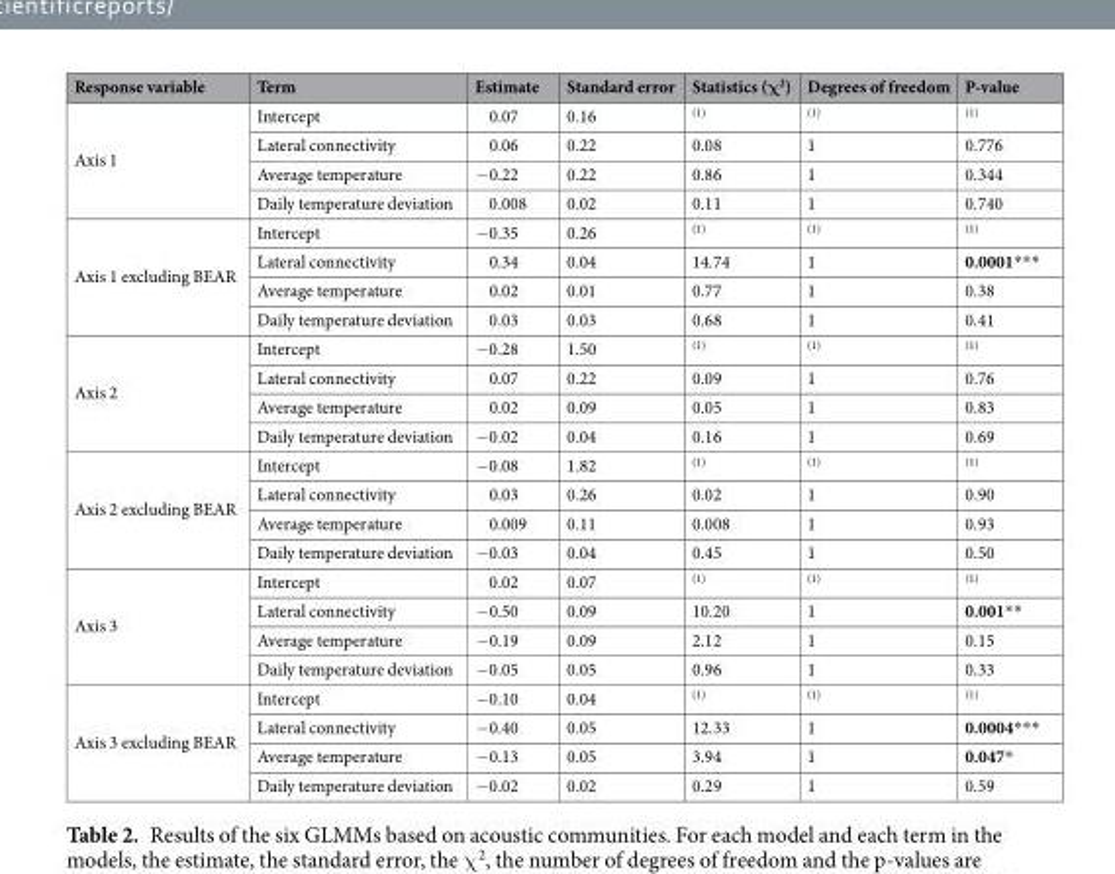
<table><thead><tr><td>Response variable</td><td>Term</td><td>Estimate</td><td>Standard error</td><td>Statistics (χ<sup>2</sup>)</td><td>Degrees of freedom</td><td>P-value</td></tr></thead><tbody><tr><td rowspan="4">Axis 1</td><td>Intercept</td><td>0.07</td><td>0.16</td><td><sup>(1)</sup></td><td><sup>(1)</sup></td><td><sup>(1)</sup></td></tr><tr><td>Lateral connectivity</td><td>0.06</td><td>0.22</td><td>0.08</td><td>1</td><td>0.776</td></tr><tr><td>Average temperature</td><td>−0.22</td><td>0.22</td><td>0.86</td><td>1</td><td>0.344</td></tr><tr><td>Daily temperature deviation</td><td>0.008</td><td>0.02</td><td>0.11</td><td>1</td><td>0.740</td></tr><tr><td rowspan="4">Axis 1 excluding BEAR</td><td>Intercept</td><td>−0.35</td><td>0.26</td><td><sup>(1)</sup></td><td><sup>(1)</sup></td><td><sup>(1)</sup></td></tr><tr><td>Lateral connectivity</td><td>0.34</td><td>0.04</td><td>14.74</td><td>1</td><td>0.0001***</td></tr><tr><td>Average temperature</td><td>0.02</td><td>0.01</td><td>0.77</td><td>1</td><td>0.38</td></tr><tr><td>Daily temperature deviation</td><td>0.03</td><td>0.03</td><td>0.68</td><td>1</td><td>0.41</td></tr><tr><td rowspan="4">Axis 2</td><td>Intercept</td><td>−0.28</td><td>1.50</td><td><sup>(1)</sup></td><td><sup>(1)</sup></td><td><sup>(1)</sup></td></tr><tr><td>Lateral connectivity</td><td>0.07</td><td>0.22</td><td>0.09</td><td>1</td><td>0.76</td></tr><tr><td>Average temperature</td><td>0.02</td><td>0.09</td><td>0.05</td><td>1</td><td>0.83</td></tr><tr><td>Daily temperature deviation</td><td>−0.02</td><td>0.04</td><td>0.16</td><td>1</td><td>0.69</td></tr><tr><td rowspan="4">Axis 2 excluding BEAR</td><td>Intercept</td><td>−0.08</td><td>1.82</td><td><sup>(1)</sup></td><td><sup>(1)</sup></td><td><sup>(1)</sup></td></tr><tr><td>Lateral connectivity</td><td>0.03</td><td>0.26</td><td>0.02</td><td>1</td><td>0.90</td></tr><tr><td>Average temperature</td><td>0.009</td><td>0.11</td><td>0.008</td><td>1</td><td>0.93</td></tr><tr><td>Daily temperature deviation</td><td>−0.03</td><td>0.04</td><td>0.45</td><td>1</td><td>0.50</td></tr><tr><td rowspan="4">Axis 3</td><td>Intercept</td><td>0.02</td><td>0.07</td><td><sup>(1)</sup></td><td><sup>(1)</sup></td><td><sup>(1)</sup></td></tr><tr><td>Lateral connectivity</td><td>−0.50</td><td>0.09</td><td>10.20</td><td>1</td><td>0.001**</td></tr><tr><td>Average temperature</td><td>−0.19</td><td>0.09</td><td>2.12</td><td>1</td><td>0.15</td></tr><tr><td>Daily temperature deviation</td><td>−0.05</td><td>0.05</td><td>0.96</td><td>1</td><td>0.33</td></tr><tr><td rowspan="4">Axis 3 excluding BEAR</td><td>Intercept</td><td>−0.10</td><td>0.04</td><td><sup>(1)</sup></td><td><sup>(1)</sup></td><td><sup>(1)</sup></td></tr><tr><td>Lateral connectivity</td><td>−0.40</td><td>0.05</td><td>12.33</td><td>1</td><td>0.0004***</td></tr><tr><td>Average temperature</td><td>−0.13</td><td>0.05</td><td>3.94</td><td>1</td><td>0.047*</td></tr><tr><td>Daily temperature deviation</td><td>−0.02</td><td>0.02</td><td>0.29</td><td>1</td><td>0.59</td></tr></tbody></table>